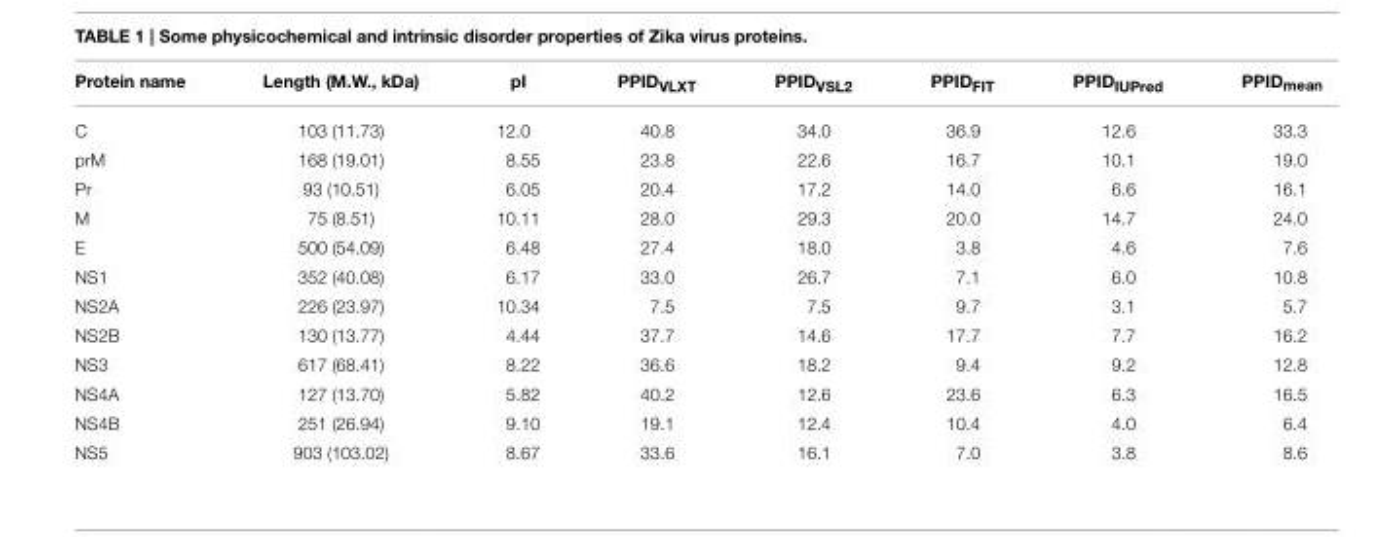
<table><thead><tr><td>Protein name</td><td>Length (M.W., kDa)</td><td>pI</td><td>PPID<sub>VLXT</sub></td><td>PPID<sub>VSL2</sub></td><td>PPID<sub>FIT</sub></td><td>PPID<sub>IUPred</sub></td><td>PPID<sub>mean</sub></td></tr></thead><tbody><tr><td>C</td><td>103 (11.73)</td><td>12.0</td><td>40.8</td><td>34.0</td><td>36.9</td><td>12.6</td><td>33.3</td></tr><tr><td>prM</td><td>168 (19.01)</td><td>8.55</td><td>23.8</td><td>22.6</td><td>16.7</td><td>10.1</td><td>19.0</td></tr><tr><td>Pr</td><td>93 (10.51)</td><td>6.05</td><td>20.4</td><td>17.2</td><td>14.0</td><td>6.6</td><td>16.1</td></tr><tr><td>M</td><td>75 (8.51)</td><td>10.11</td><td>28.0</td><td>29.3</td><td>20.0</td><td>14.7</td><td>24.0</td></tr><tr><td>E</td><td>500 (54.09)</td><td>6.48</td><td>27.4</td><td>18.0</td><td>3.8</td><td>4.6</td><td>7.6</td></tr><tr><td>NS1</td><td>352 (40.08)</td><td>6.17</td><td>33.0</td><td>26.7</td><td>7.1</td><td>6.0</td><td>10.8</td></tr><tr><td>NS2A</td><td>226 (23.97)</td><td>10.34</td><td>7.5</td><td>7.5</td><td>9.7</td><td>3.1</td><td>5.7</td></tr><tr><td>NS2B</td><td>130 (13.77)</td><td>4.44</td><td>37.7</td><td>14.6</td><td>17.7</td><td>7.7</td><td>16.2</td></tr><tr><td>NS3</td><td>617 (68.41)</td><td>8.22</td><td>36.6</td><td>18.2</td><td>9.4</td><td>9.2</td><td>12.8</td></tr><tr><td>NS4A</td><td>127 (13.70)</td><td>5.82</td><td>40.2</td><td>12.6</td><td>23.6</td><td>6.3</td><td>16.5</td></tr><tr><td>NS4B</td><td>251 (26.94)</td><td>9.10</td><td>19.1</td><td>12.4</td><td>10.4</td><td>4.0</td><td>6.4</td></tr><tr><td>NS5</td><td>903 (103.02)</td><td>8.67</td><td>33.6</td><td>16.1</td><td>7.0</td><td>3.8</td><td>8.6</td></tr></tbody></table>